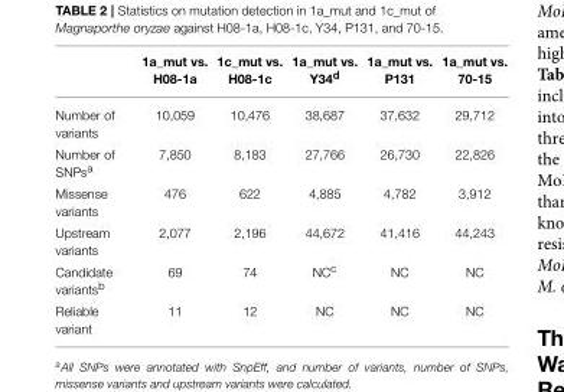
<table><thead><tr><td></td><td>1a_mut vs. H08-1a</td><td>1c_mut vs. H08-1c</td><td>1a_mut vs. Y34<sup>d</sup></td><td>1a_mut vs. P131</td><td>1a_mut vs. 70-15</td></tr></thead><tbody><tr><td>Number of variants</td><td>10,059</td><td>10,476</td><td>38,687</td><td>37,632</td><td>29,712</td></tr><tr><td>Number of SNPs<sup>a</sup></td><td>7,850</td><td>8,183</td><td>27,766</td><td>26,730</td><td>22,826</td></tr><tr><td>Missense variants</td><td>476</td><td>622</td><td>4,885</td><td>4,782</td><td>3,912</td></tr><tr><td>Upstream variants</td><td>2,077</td><td>2,196</td><td>44,672</td><td>41,416</td><td>44,243</td></tr><tr><td>Candidate variants<sup>b</sup></td><td>69</td><td>74</td><td>NC<sup>c</sup></td><td>NC</td><td>NC</td></tr><tr><td>Reliable variant</td><td>11</td><td>12</td><td>NC</td><td>NC</td><td>NC</td></tr></tbody></table>